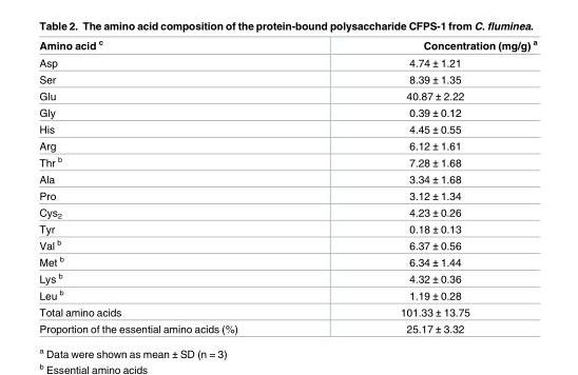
<table><thead><tr><td>Amino acid <sup>c</sup></td><td>Concentration (mg/g) <sup>a</sup></td></tr></thead><tbody><tr><td>Asp</td><td>4.74 ± 1.21</td></tr><tr><td>Ser</td><td>8.39 ± 1.35</td></tr><tr><td>Glu</td><td>40.87 ± 2.22</td></tr><tr><td>Gly</td><td>0.39 ± 0.12</td></tr><tr><td>His</td><td>4.45 ± 0.55</td></tr><tr><td>Arg</td><td>6.12 ± 1.61</td></tr><tr><td>Thr <sup>b</sup></td><td>7.28 ± 1.68</td></tr><tr><td>Ala</td><td>3.34 ± 1.68</td></tr><tr><td>Pro</td><td>3.12 ± 1.34</td></tr><tr><td>Cys<sub>2</sub></td><td>4.23 ± 0.26</td></tr><tr><td>Tyr</td><td>0.18 ± 0.13</td></tr><tr><td>Val <sup>b</sup></td><td>6.37 ± 0.56</td></tr><tr><td>Met <sup>b</sup></td><td>6.34 ± 1.44</td></tr><tr><td>Lys <sup>b</sup></td><td>4.32 ± 0.36</td></tr><tr><td>Leu <sup>b</sup></td><td>1.19 ± 0.28</td></tr><tr><td>Total amino acids</td><td>101.33 ± 13.75</td></tr><tr><td>Proportion of the essential amino acids (%)</td><td>25.17 ± 3.32</td></tr></tbody></table>